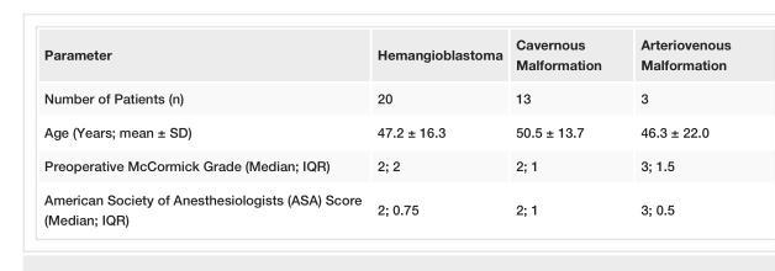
<table><tbody><tr><td>Parameter</td><td>Hemangioblastoma</td><td>Cavernous Malformation</td><td>Arteriovenous Malformation</td></tr><tr><td>Number of Patients (n)</td><td>20</td><td>13</td><td>3</td></tr><tr><td>Age (Years; mean ± SD)</td><td>47.2 ± 16.3</td><td>50.5 ± 13.7</td><td>46.3 ± 22.0</td></tr><tr><td>Preoperative McCormick Grade (Median; IQR)</td><td>2; 2</td><td>2; 1</td><td>3; 1.5</td></tr><tr><td>American Society of Anesthesiologists (ASA) Score (Median; IQR)</td><td>2; 0.75</td><td>2; 1</td><td>3; 0.5</td></tr></tbody></table>